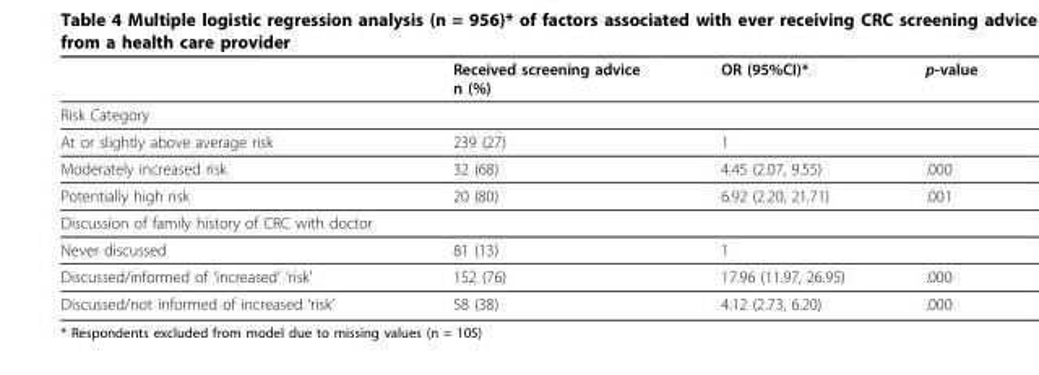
<table><thead><tr><td></td><td>Received screening advice n (%)</td><td>OR (95%CI)*</td><td>p-value</td></tr></thead><tbody><tr><td colspan="4">Risk Category</td></tr><tr><td>At or slightly above average risk</td><td>239 (27)</td><td>1</td><td></td></tr><tr><td>Moderately increased risk</td><td>32 (68)</td><td>4.45 (2.07, 9.55)</td><td>.000</td></tr><tr><td>Potentially high risk</td><td>20 (80)</td><td>6.92 (2.20, 21.71)</td><td>.001</td></tr><tr><td colspan="4">Discussion of family history of CRC with doctor</td></tr><tr><td>Never discussed</td><td>81 (13)</td><td>1</td><td></td></tr><tr><td>Discussed/informed of ‘increased’ ‘risk’</td><td>152 (76)</td><td>17.96 (11.97, 26.95)</td><td>.000</td></tr><tr><td>Discussed/not informed of increased ‘risk’</td><td>58 (38)</td><td>4.12 (2.73, 6.20)</td><td>.000</td></tr></tbody></table>